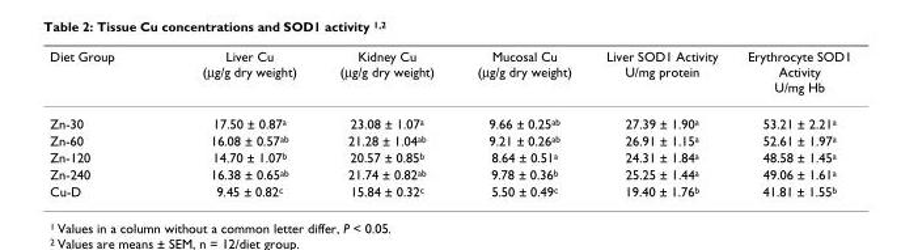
<table><thead><tr><td>Diet Group</td><td>Liver Cu (µg/g dry weight)</td><td>Kidney Cu (µg/g dry weight)</td><td>Mucosal Cu (µg/g dry weight)</td><td>Liver SOD1 Activity U/mg protein</td><td>Erythrocyte SOD1 Activity U/mg Hb</td></tr></thead><tbody><tr><td>Zn-30</td><td>17.50 ± 0.87<sup>a</sup></td><td>23.08 ± 1.07<sup>a</sup></td><td>9.66 ± 0.25<sup>ab</sup></td><td>27.39 ± 1.90<sup>a</sup></td><td>53.21 ± 2.21<sup>a</sup></td></tr><tr><td>Zn-60</td><td>16.08 ± 0.57<sup>ab</sup></td><td>21.28 ± 1.04<sup>ab</sup></td><td>9.21 ± 0.26<sup>ab</sup></td><td>26.91 ± 1.15<sup>a</sup></td><td>52.61 ± 1.97<sup>a</sup></td></tr><tr><td>Zn-120</td><td>14.70 ± 1.07<sup>b</sup></td><td>20.57 ± 0.85<sup>b</sup></td><td>8.64 ± 0.51<sup>a</sup></td><td>24.31 ± 1.84<sup>a</sup></td><td>48.58 ± 1.45<sup>a</sup></td></tr><tr><td>Zn-240</td><td>16.38 ± 0.65<sup>ab</sup></td><td>21.74 ± 0.82<sup>ab</sup></td><td>9.78 ± 0.36<sup>b</sup></td><td>25.25 ± 1.44<sup>a</sup></td><td>49.06 ± 1.61<sup>a</sup></td></tr><tr><td>Cu-D</td><td>9.45 ± 0.82<sup>c</sup></td><td>15.84 ± 0.32<sup>c</sup></td><td>5.50 ± 0.49<sup>c</sup></td><td>19.40 ± 1.76<sup>b</sup></td><td>41.81 ± 1.55<sup>b</sup></td></tr></tbody></table>